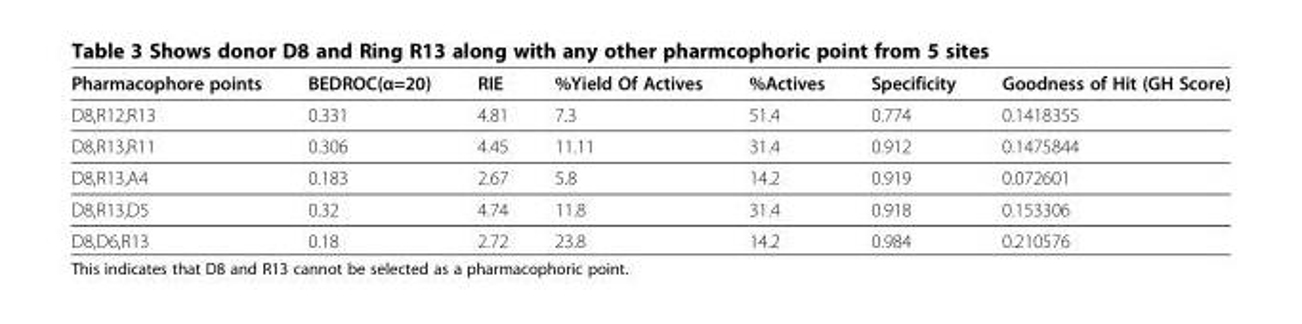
<table><thead><tr><td>Pharmacophore points</td><td>BEDROC(α=20)</td><td>RIE</td><td>%Yield Of Actives</td><td>%Actives</td><td>Specificity</td><td>Goodness of Hit (GH Score)</td></tr></thead><tbody><tr><td>D8,R12,R13</td><td>0.331</td><td>4.81</td><td>7.3</td><td>51.4</td><td>0.774</td><td>0.1418355</td></tr><tr><td>D8,R13,R11</td><td>0.306</td><td>4.45</td><td>11.11</td><td>31.4</td><td>0.912</td><td>0.1475844</td></tr><tr><td>D8,R13,A4</td><td>0.183</td><td>2.67</td><td>5.8</td><td>14.2</td><td>0.919</td><td>0.072601</td></tr><tr><td>D8,R13,D5</td><td>0.32</td><td>4.74</td><td>11.8</td><td>31.4</td><td>0.918</td><td>0.153306</td></tr><tr><td>D8,D6,R13</td><td>0.18</td><td>2.72</td><td>23.8</td><td>14.2</td><td>0.984</td><td>0.210576</td></tr></tbody></table>